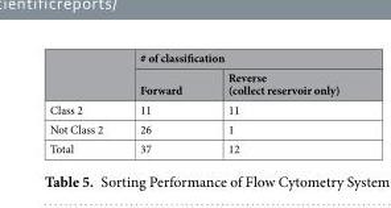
<table><thead><tr><td rowspan="2"></td><td colspan="2"># of classification</td></tr><tr><td>Forward</td><td>Reverse (collect reservoir only)</td></tr></thead><tbody><tr><td>Class 2</td><td>11</td><td>11</td></tr><tr><td>Not Class 2</td><td>26</td><td>1</td></tr><tr><td>Total</td><td>37</td><td>12</td></tr></tbody></table>